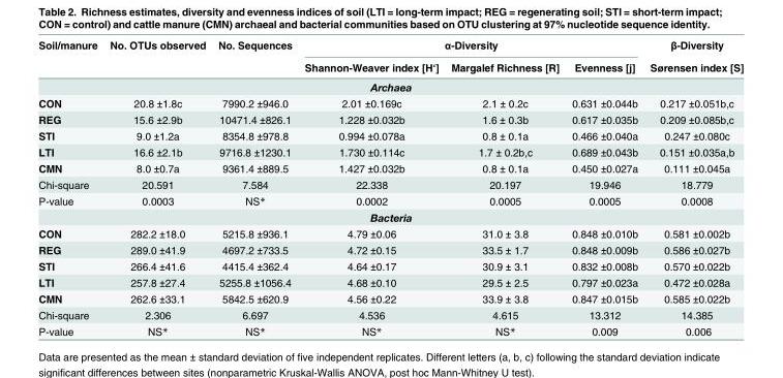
<table><thead><tr><td rowspan="2">Soil/manure</td><td rowspan="2">No. OTUs observed</td><td rowspan="2">No. Sequences</td><td colspan="3">α-Diversity</td><td rowspan="2">β-Diversity Sørensen index [S]</td></tr><tr><td>Shannon-Weaver index [H‘]</td><td>Margalef Richness [R]</td><td>Evenness [j]</td></tr></thead><tbody><tr><td colspan="7">Archaea</td></tr><tr><td>CON</td><td>20.8 ±1.8c</td><td>7990.2 ±946.0</td><td>2.01 ±0.169c</td><td>2.1 ± 0.2c</td><td>0.631 ±0.044b</td><td>0.217 ±0.051b,c</td></tr><tr><td>REG</td><td>15.6 ±2.9b</td><td>10471.4 ±826.1</td><td>1.228 ±0.032b</td><td>1.6 ± 0.3b</td><td>0.617 ±0.035b</td><td>0.209 ±0.085b,c</td></tr><tr><td>STI</td><td>9.0 ±1.2a</td><td>8354.8 ±978.8</td><td>0.994 ±0.078a</td><td>0.8 ± 0.1a</td><td>0.466 ±0.040a</td><td>0.247 ±0.080c</td></tr><tr><td>LTI</td><td>16.6 ±2.1b</td><td>9716.8 ±1230.1</td><td>1.730 ±0.114c</td><td>1.7 ± 0.2b,c</td><td>0.689 ±0.043b</td><td>0.151 ±0.035a,b</td></tr><tr><td>CMN</td><td>8.0 ±0.7a</td><td>9361.4 ±889.5</td><td>1.427 ±0.032b</td><td>0.8 ± 0.1a</td><td>0.450 ±0.027a</td><td>0.111 ±0.045a</td></tr><tr><td>Chi-square</td><td>20.591</td><td>7.584</td><td>22.338</td><td>20.197</td><td>19.946</td><td>18.779</td></tr><tr><td>P-value</td><td>0.0003</td><td>NS*</td><td>0.0002</td><td>0.0005</td><td>0.0005</td><td>0.0008</td></tr><tr><td colspan="7">Bacteria</td></tr><tr><td>CON</td><td>282.2 ±18.0</td><td>5215.8 ±936.1</td><td>4.79 ±0.06</td><td>31.0 ± 3.8</td><td>0.848 ±0.010b</td><td>0.581 ±0.002b</td></tr><tr><td>REG</td><td>289.0 ±41.9</td><td>4697.2 ±733.5</td><td>4.72 ±0.15</td><td>33.5 ± 1.7</td><td>0.848 ±0.009b</td><td>0.586 ±0.027b</td></tr><tr><td>STI</td><td>266.4 ±41.6</td><td>4415.4 ±362.4</td><td>4.64 ±0.17</td><td>30.9 ± 3.1</td><td>0.832 ±0.008b</td><td>0.570 ±0.022b</td></tr><tr><td>LTI</td><td>257.8 ±27.4</td><td>5255.8 ±1056.4</td><td>4.68 ±0.10</td><td>29.5 ± 2.5</td><td>0.797 ±0.023a</td><td>0.472 ±0.028a</td></tr><tr><td>CMN</td><td>262.6 ±33.1</td><td>5842.5 ±620.9</td><td>4.56 ±0.22</td><td>33.9 ± 3.8</td><td>0.847 ±0.015b</td><td>0.585 ±0.022b</td></tr><tr><td>Chi-square</td><td>2.306</td><td>6.697</td><td>4.536</td><td>4.615</td><td>13.312</td><td>14.385</td></tr><tr><td>P-value</td><td>NS*</td><td>NS*</td><td>NS*</td><td>NS*</td><td>0.009</td><td>0.006</td></tr></tbody></table>